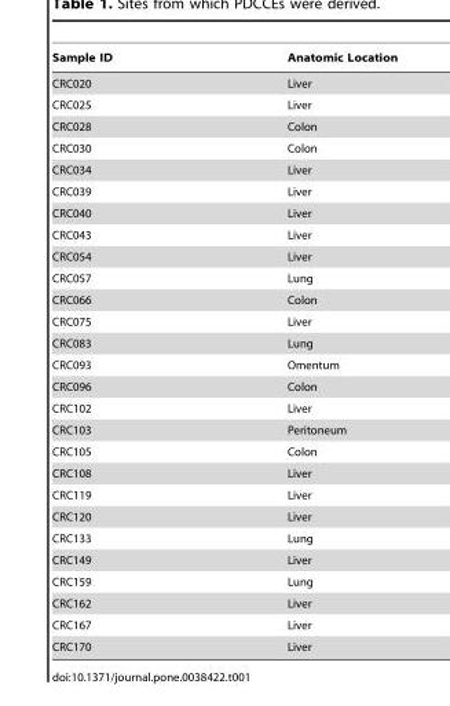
<table><thead><tr><td>Sample ID</td><td>Anatomic Location</td></tr></thead><tbody><tr><td>CRC020</td><td>Liver</td></tr><tr><td>CRC025</td><td>Liver</td></tr><tr><td>CRC028</td><td>Colon</td></tr><tr><td>CRC030</td><td>Colon</td></tr><tr><td>CRC034</td><td>Liver</td></tr><tr><td>CRC039</td><td>Liver</td></tr><tr><td>CRC040</td><td>Liver</td></tr><tr><td>CRC043</td><td>Liver</td></tr><tr><td>CRC054</td><td>Liver</td></tr><tr><td>CRC057</td><td>Lung</td></tr><tr><td>CRC066</td><td>Colon</td></tr><tr><td>CRC075</td><td>Liver</td></tr><tr><td>CRC083</td><td>Lung</td></tr><tr><td>CRC093</td><td>Omentum</td></tr><tr><td>CRC096</td><td>Colon</td></tr><tr><td>CRC102</td><td>Liver</td></tr><tr><td>CRC103</td><td>Peritoneum</td></tr><tr><td>CRC105</td><td>Colon</td></tr><tr><td>CRC108</td><td>Liver</td></tr><tr><td>CRC119</td><td>Liver</td></tr><tr><td>CRC120</td><td>Liver</td></tr><tr><td>CRC133</td><td>Lung</td></tr><tr><td>CRC149</td><td>Liver</td></tr><tr><td>CRC159</td><td>Lung</td></tr><tr><td>CRC162</td><td>Liver</td></tr><tr><td>CRC167</td><td>Liver</td></tr><tr><td>CRC170</td><td>Liver</td></tr></tbody></table>